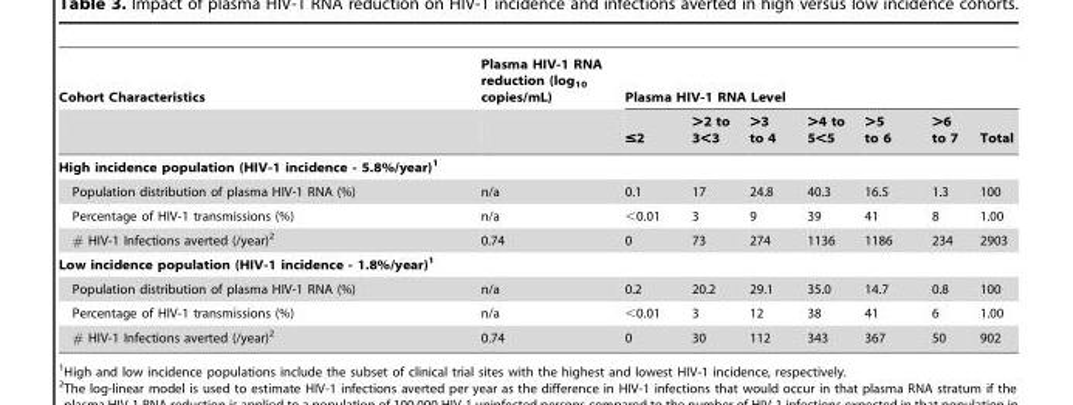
<table><thead><tr><td rowspan="2">Cohort Characteristics</td><td rowspan="2">Plasma HIV-1 RNA reduction (log<sub>10</sub> copies/mL)</td><td colspan="7">Plasma HIV-1 RNA Level</td></tr><tr><td>≤2</td><td>&gt;2 to 3&lt;3</td><td>&gt;3 to 4</td><td>&gt;4 to 5&lt;5</td><td>&gt;5 to 6</td><td>&gt;6 to 7</td><td>Total</td></tr></thead><tbody><tr><td colspan="9">High incidence population (HIV-1 incidence - 5.8%/year)1</td></tr><tr><td>Population distribution of plasma HIV-1 RNA (%)</td><td>n/a</td><td>0.1</td><td>17</td><td>24.8</td><td>40.3</td><td>16.5</td><td>1.3</td><td>100</td></tr><tr><td>Percentage of HIV-1 transmissions (%)</td><td>n/a</td><td>&lt;0.01</td><td>3</td><td>9</td><td>39</td><td>41</td><td>8</td><td>1.00</td></tr><tr><td># HIV-1 Infections averted (/year)<sup>2</sup></td><td>0.74</td><td>0</td><td>73</td><td>274</td><td>1136</td><td>1186</td><td>234</td><td>2903</td></tr><tr><td colspan="9">Low incidence population (HIV-1 incidence - 1.8%/year)1</td></tr><tr><td>Population distribution of plasma HIV-1 RNA (%)</td><td>n/a</td><td>0.2</td><td>20.2</td><td>29.1</td><td>35.0</td><td>14.7</td><td>0.8</td><td>100</td></tr><tr><td>Percentage of HIV-1 transmissions (%)</td><td>n/a</td><td>&lt;0.01</td><td>3</td><td>12</td><td>38</td><td>41</td><td>6</td><td>1.00</td></tr><tr><td># HIV-1 Infections averted (/year)<sup>2</sup></td><td>0.74</td><td>0</td><td>30</td><td>112</td><td>343</td><td>367</td><td>50</td><td>902</td></tr></tbody></table>